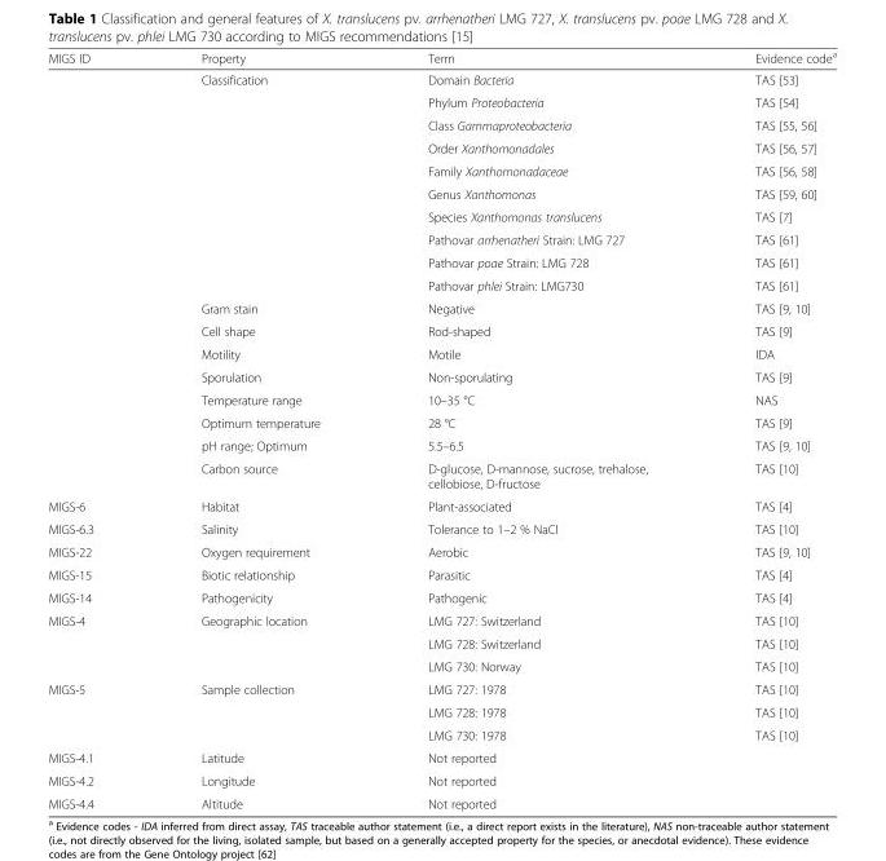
<table><thead><tr><td>MIGS ID</td><td>Property</td><td>Term</td><td>Evidence code<sup>a</sup></td></tr></thead><tbody><tr><td rowspan="18"></td><td rowspan="10">Classification</td><td>Domain Bacteria</td><td>TAS [53]</td></tr><tr><td>Phylum Proteobacteria</td><td>TAS [54]</td></tr><tr><td>Class Gammaproteobacteria</td><td>TAS [55, 56]</td></tr><tr><td>Order Xanthomonadales</td><td>TAS [56, 57]</td></tr><tr><td>Family Xanthomonadaceae</td><td>TAS [56, 58]</td></tr><tr><td>Genus Xanthomonas</td><td>TAS [59, 60]</td></tr><tr><td>Species Xanthomonas translucens</td><td>TAS [7]</td></tr><tr><td>Pathovar arrhenatheri Strain: LMG 727</td><td>TAS [61]</td></tr><tr><td>Pathovar poae Strain: LMG 728</td><td>TAS [61]</td></tr><tr><td>Pathovar phlei Strain: LMG730</td><td>TAS [61]</td></tr><tr><td>Gram stain</td><td>Negative</td><td>TAS [9, 10]</td></tr><tr><td>Cell shape</td><td>Rod-shaped</td><td>TAS [9]</td></tr><tr><td>Motility</td><td>Motile</td><td>IDA</td></tr><tr><td>Sporulation</td><td>Non-sporulating</td><td>TAS [9]</td></tr><tr><td>Temperature range</td><td>10–35 °C</td><td>NAS</td></tr><tr><td>Optimum temperature</td><td>28 °C</td><td>TAS [9]</td></tr><tr><td>pH range; Optimum</td><td>5.5–6.5</td><td>TAS [9, 10]</td></tr><tr><td>Carbon source</td><td>D-glucose, D-mannose, sucrose, trehalose, cellobiose, D-fructose</td><td>TAS [10]</td></tr><tr><td>MIGS-6</td><td>Habitat</td><td>Plant-associated</td><td>TAS [4]</td></tr><tr><td>MIGS-6.3</td><td>Salinity</td><td>Tolerance to 1–2 % NaCl</td><td>TAS [10]</td></tr><tr><td>MIGS-22</td><td>Oxygen requirement</td><td>Aerobic</td><td>TAS [9, 10]</td></tr><tr><td>MIGS-15</td><td>Biotic relationship</td><td>Parasitic</td><td>TAS [4]</td></tr><tr><td>MIGS-14</td><td>Pathogenicity</td><td>Pathogenic</td><td>TAS [4]</td></tr><tr><td rowspan="3">MIGS-4</td><td rowspan="3">Geographic location</td><td>LMG 727: Switzerland</td><td>TAS [10]</td></tr><tr><td>LMG 728: Switzerland</td><td>TAS [10]</td></tr><tr><td>LMG 730: Norway</td><td>TAS [10]</td></tr><tr><td rowspan="3">MIGS-5</td><td rowspan="3">Sample collection</td><td>LMG 727: 1978</td><td>TAS [10]</td></tr><tr><td>LMG 728: 1978</td><td>TAS [10]</td></tr><tr><td>LMG 730: 1978</td><td>TAS [10]</td></tr><tr><td>MIGS-4.1</td><td>Latitude</td><td>Not reported</td><td></td></tr><tr><td>MIGS-4.2</td><td>Longitude</td><td>Not reported</td><td></td></tr><tr><td>MIGS-4.4</td><td>Altitude</td><td>Not reported</td><td></td></tr></tbody></table>